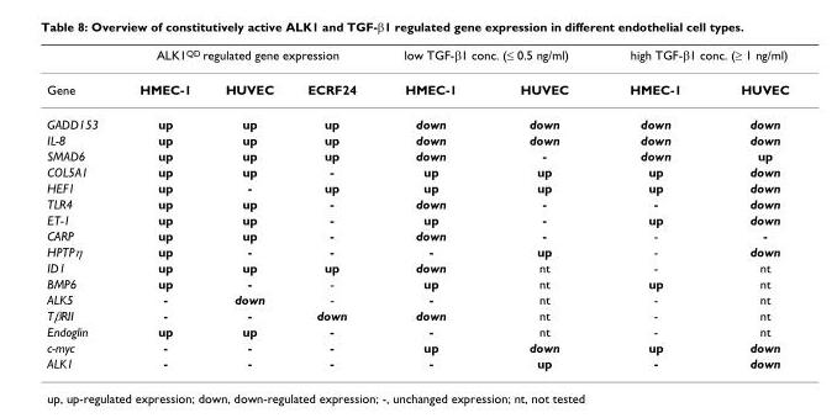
<table><thead><tr><td rowspan="2">Gene</td><td colspan="3">ALK1<sup>QD</sup> regulated gene expression</td><td colspan="2">low TGF-β1 conc. (≤ 0.5 ng/ml)</td><td colspan="2">high TGF-β1 conc. (≥ 1 ng/ml)</td></tr><tr><td>HMEC-1</td><td>HUVEC</td><td>ECRF24</td><td>HMEC-1</td><td>HUVEC</td><td>HMEC-1</td><td>HUVEC</td></tr></thead><tbody><tr><td>GADD153</td><td>up</td><td>up</td><td>up</td><td>down</td><td>down</td><td>down</td><td>down</td></tr><tr><td>IL-8</td><td>up</td><td>up</td><td>up</td><td>down</td><td>down</td><td>down</td><td>down</td></tr><tr><td>SMAD6</td><td>up</td><td>up</td><td>up</td><td>down</td><td>-</td><td>down</td><td>up</td></tr><tr><td>COL5A1</td><td>up</td><td>up</td><td>-</td><td>up</td><td>up</td><td>up</td><td>down</td></tr><tr><td>HEF1</td><td>up</td><td>-</td><td>up</td><td>up</td><td>up</td><td>up</td><td>down</td></tr><tr><td>TLR4</td><td>up</td><td>up</td><td>-</td><td>down</td><td>-</td><td>-</td><td>down</td></tr><tr><td>ET-1</td><td>up</td><td>up</td><td>-</td><td>up</td><td>-</td><td>up</td><td>down</td></tr><tr><td>CARP</td><td>up</td><td>up</td><td>-</td><td>down</td><td>-</td><td>-</td><td>-</td></tr><tr><td>HPTPη</td><td>up</td><td>-</td><td>-</td><td>-</td><td>up</td><td>-</td><td>down</td></tr><tr><td>ID1</td><td>up</td><td>up</td><td>up</td><td>down</td><td>nt</td><td>-</td><td>nt</td></tr><tr><td>BMP6</td><td>up</td><td>-</td><td>-</td><td>up</td><td>nt</td><td>up</td><td>nt</td></tr><tr><td>ALK5</td><td>-</td><td>down</td><td>-</td><td>-</td><td>nt</td><td>-</td><td>nt</td></tr><tr><td>TβRII</td><td>-</td><td>-</td><td>down</td><td>down</td><td>nt</td><td>-</td><td>nt</td></tr><tr><td>Endoglin</td><td>up</td><td>up</td><td>-</td><td>-</td><td>nt</td><td>-</td><td>nt</td></tr><tr><td>c-myc</td><td>-</td><td>-</td><td>-</td><td>up</td><td>down</td><td>up</td><td>down</td></tr><tr><td>ALK1</td><td>-</td><td>-</td><td>-</td><td>-</td><td>up</td><td>-</td><td>down</td></tr></tbody></table>